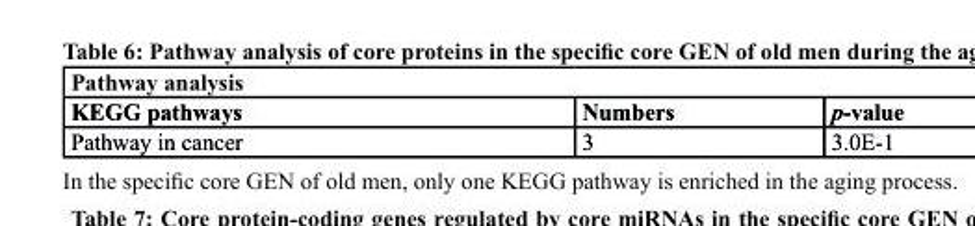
<table><thead><tr><td colspan="3">Pathway analysis</td></tr><tr><td>KEGG pathways</td><td>numbers</td><td>p-value</td></tr></thead><tbody><tr><td>Pathway in cancer</td><td>3</td><td>3.0E-1</td></tr></tbody></table>